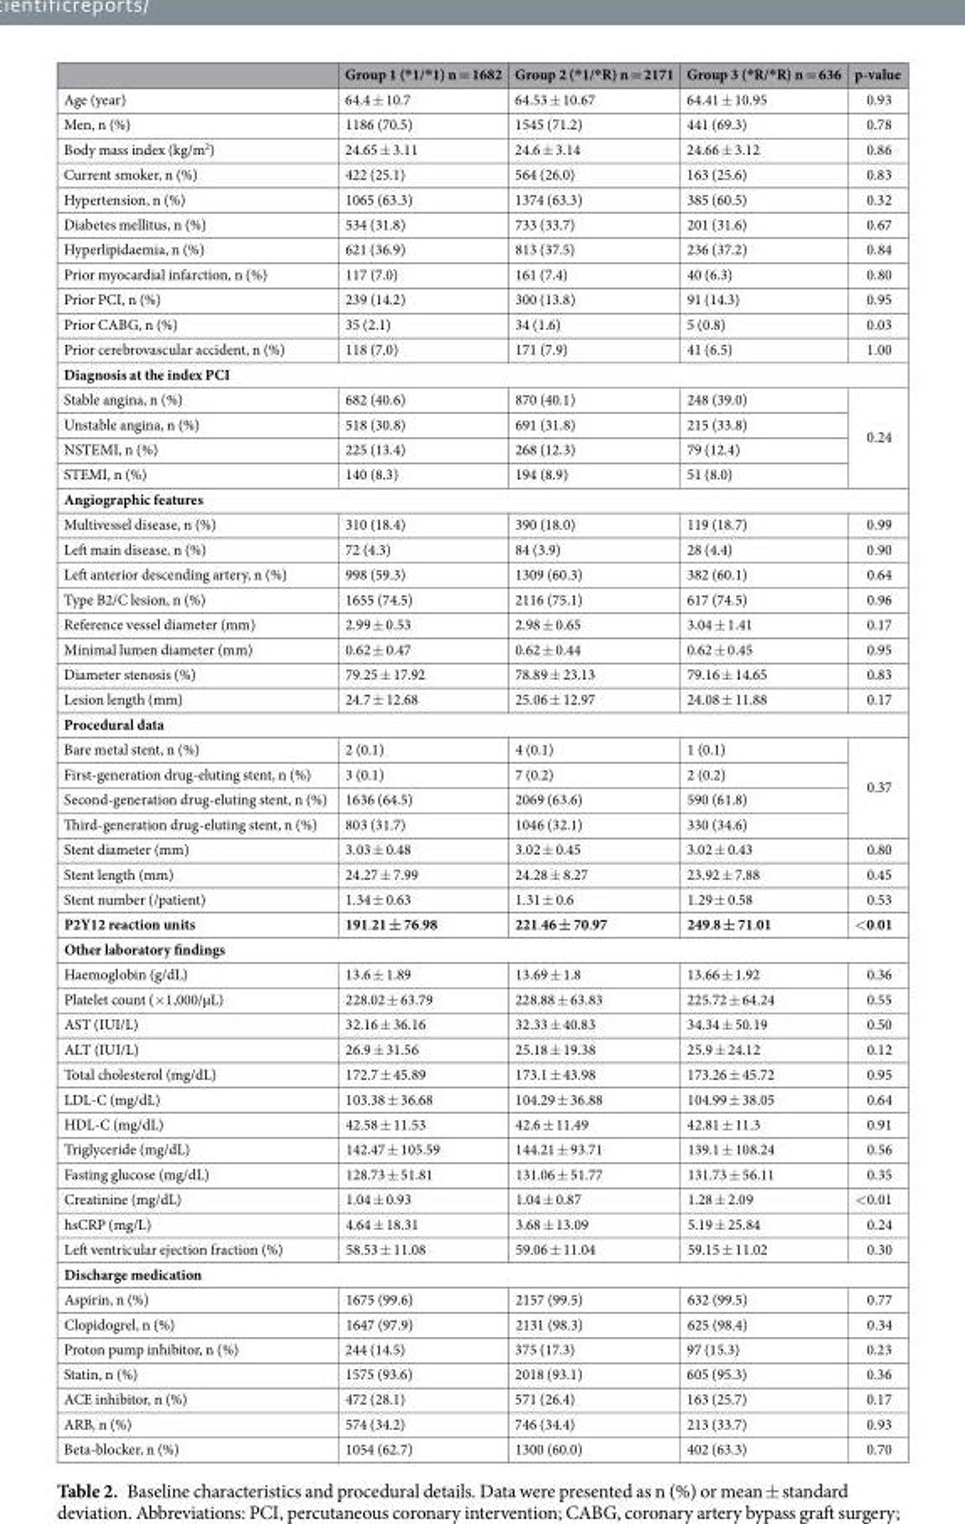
<table><thead><tr><td></td><td>Group 1 (*1/*1) n = 1682</td><td>Group 2 (*1/*R) n = 2171</td><td>Group 3 (*R/*R) n = 636</td><td>p-value</td></tr></thead><tbody><tr><td>Age (year)</td><td>64.4 ± 10.7</td><td>64.53 ± 10.67</td><td>64.41 ± 10.95</td><td>0.93</td></tr><tr><td>Men, n (%)</td><td>1186 (70.5)</td><td>1545 (71.2)</td><td>441 (69.3)</td><td>0.78</td></tr><tr><td>Body mass index (kg/m<sup>2</sup>)</td><td>24.65 ± 3.11</td><td>24.6 ± 3.14</td><td>24.66 ± 3.12</td><td>0.86</td></tr><tr><td>Current smoker, n (%)</td><td>422 (25.1)</td><td>564 (26.0)</td><td>163 (25.6)</td><td>0.83</td></tr><tr><td>Hypertension, n (%)</td><td>1065 (63.3)</td><td>1374 (63.3)</td><td>385 (60.5)</td><td>0.32</td></tr><tr><td>Diabetes mellitus, n (%)</td><td>534 (31.8)</td><td>733 (33.7)</td><td>201 (31.6)</td><td>0.67</td></tr><tr><td>Hyperlipidaemia, n (%)</td><td>621 (36.9)</td><td>813 (37.5)</td><td>236 (37.2)</td><td>0.84</td></tr><tr><td>Prior myocardial infarction, n (%)</td><td>117 (7.0)</td><td>161 (7.4)</td><td>40 (6.3)</td><td>0.80</td></tr><tr><td>Prior PCI, n (%)</td><td>239 (14.2)</td><td>300 (13.8)</td><td>91 (14.3)</td><td>0.95</td></tr><tr><td>Prior CABG, n (%)</td><td>35 (2.1)</td><td>34 (1.6)</td><td>5 (0.8)</td><td>0.03</td></tr><tr><td>Prior cerebrovascular accident, n (%)</td><td>118 (7.0)</td><td>171 (7.9)</td><td>41 (6.5)</td><td>1.00</td></tr><tr><td colspan="5">Diagnosis at the index PCI</td></tr><tr><td>Stable angina, n (%)</td><td>682 (40.6)</td><td>870 (40.1)</td><td>248 (39.0)</td><td rowspan="4">0.24</td></tr><tr><td>Unstable angina, n (%)</td><td>518 (30.8)</td><td>691 (31.8)</td><td>215 (33.8)</td></tr><tr><td>NSTEMI, n (%)</td><td>225 (13.4)</td><td>268 (12.3)</td><td>79 (12.4)</td></tr><tr><td>STEMI, n (%)</td><td>140 (8.3)</td><td>194 (8.9)</td><td>51 (8.0)</td></tr><tr><td colspan="5">Angiographic features</td></tr><tr><td>Multivessel disease, n (%)</td><td>310 (18.4)</td><td>390 (18.0)</td><td>119 (18.7)</td><td>0.99</td></tr><tr><td>Left main disease, n (%)</td><td>72 (4.3)</td><td>84 (3.9)</td><td>28 (4.4)</td><td>0.90</td></tr><tr><td>Left anterior descending artery, n (%)</td><td>998 (59.3)</td><td>1309 (60.3)</td><td>382 (60.1)</td><td>0.64</td></tr><tr><td>Type B2/C lesion, n (%)</td><td>1655 (74.5)</td><td>2116 (75.1)</td><td>617 (74.5)</td><td>0.96</td></tr><tr><td>Reference vessel diameter (mm)</td><td>2.99 ± 0.53</td><td>2.98 ± 0.65</td><td>3.04 ± 1.41</td><td>0.17</td></tr><tr><td>Minimal lumen diameter (mm)</td><td>0.62 ± 0.47</td><td>0.62 ± 0.44</td><td>0.62 ± 0.45</td><td>0.95</td></tr><tr><td>Diameter stenosis (%)</td><td>79.25 ± 17.92</td><td>78.89 ± 23.13</td><td>79.16 ± 14.65</td><td>0.83</td></tr><tr><td>Lesion length (mm)</td><td>24.7 ± 12.68</td><td>25.06 ± 12.97</td><td>24.08 ± 11.88</td><td>0.17</td></tr><tr><td colspan="5">Procedural data</td></tr><tr><td>Bare metal stent, n (%)</td><td>2 (0.1)</td><td>4 (0.1)</td><td>1 (0.1)</td><td rowspan="4">0.37</td></tr><tr><td>First-generation drug-eluting stent, n (%)</td><td>3 (0.1)</td><td>7 (0.2)</td><td>2 (0.2)</td></tr><tr><td>Second-generation drug-eluting stent, n (%)</td><td>1636 (64.5)</td><td>2069 (63.6)</td><td>590 (61.8)</td></tr><tr><td>Third-generation drug-eluting stent, n (%)</td><td>803 (31.7)</td><td>1046 (32.1)</td><td>330 (34.6)</td></tr><tr><td>Stent diameter (mm)</td><td>3.03 ± 0.48</td><td>3.02 ± 0.45</td><td>3.02 ± 0.43</td><td>0.80</td></tr><tr><td>Stent length (mm)</td><td>24.27 ± 7.99</td><td>24.28 ± 8.27</td><td>23.92 ± 7.88</td><td>0.45</td></tr><tr><td>Stent number (/patient)</td><td>1.34 ± 0.63</td><td>1.31 ± 0.6</td><td>1.29 ± 0.58</td><td>0.53</td></tr><tr><td>P2Y12 reaction units</td><td>191.21 ± 76.98</td><td>221.46 ± 70.97</td><td>249.8 ± 71.01</td><td>&lt;0.01</td></tr><tr><td colspan="5">Other laboratory findings</td></tr><tr><td>Haemoglobin (g/dL)</td><td>13.6 ± 1.89</td><td>13.69 ± 1.8</td><td>13.66 ± 1.92</td><td>0.36</td></tr><tr><td>Platelet count (×1,000/µL)</td><td>228.02 ± 63.79</td><td>228.88 ± 63.83</td><td>225.72 ± 64.24</td><td>0.55</td></tr><tr><td>AST (IUI/L)</td><td>32.16 ± 36.16</td><td>32.33 ± 40.83</td><td>34.34 ± 50.19</td><td>0.50</td></tr><tr><td>ALT (IUI/L)</td><td>26.9 ± 31.56</td><td>25.18 ± 19.38</td><td>25.9 ± 24.12</td><td>0.12</td></tr><tr><td>Total cholesterol (mg/dL)</td><td>172.7 ± 45.89</td><td>173.1 ± 43.98</td><td>173.26 ± 45.72</td><td>0.95</td></tr><tr><td>LDL-C (mg/dL)</td><td>103.38 ± 36.68</td><td>104.29 ± 36.88</td><td>104.99 ± 38.05</td><td>0.64</td></tr><tr><td>HDL-C (mg/dL)</td><td>42.58 ± 11.53</td><td>42.6 ± 11.49</td><td>42.81 ± 11.3</td><td>0.91</td></tr><tr><td>Triglyceride (mg/dL)</td><td>142.47 ± 105.59</td><td>144.21 ± 93.71</td><td>139.1 ± 108.24</td><td>0.56</td></tr><tr><td>Fasting glucose (mg/dL)</td><td>128.73 ± 51.81</td><td>131.06 ± 51.77</td><td>131.73 ± 56.11</td><td>0.35</td></tr><tr><td>Creatinine (mg/dL)</td><td>1.04 ± 0.93</td><td>1.04 ± 0.87</td><td>1.28 ± 2.09</td><td>&lt;0.01</td></tr><tr><td>hsCRP (mg/L)</td><td>4.64 ± 18.31</td><td>3.68 ± 13.09</td><td>5.19 ± 25.84</td><td>0.24</td></tr><tr><td>Left ventricular ejection fraction (%)</td><td>58.53 ± 11.08</td><td>59.06 ± 11.04</td><td>59.15 ± 11.02</td><td>0.30</td></tr><tr><td colspan="5">Discharge medication</td></tr><tr><td>Aspirin, n (%)</td><td>1675 (99.6)</td><td>2157 (99.5)</td><td>632 (99.5)</td><td>0.77</td></tr><tr><td>Clopidogrel, n (%)</td><td>1647 (97.9)</td><td>2131 (98.3)</td><td>625 (98.4)</td><td>0.34</td></tr><tr><td>Proton pump inhibitor, n (%)</td><td>244 (14.5)</td><td>375 (17.3)</td><td>97 (15.3)</td><td>0.23</td></tr><tr><td>Statin, n (%)</td><td>1575 (93.6)</td><td>2018 (93.1)</td><td>605 (95.3)</td><td>0.36</td></tr><tr><td>ACE inhibitor, n (%)</td><td>472 (28.1)</td><td>571 (26.4)</td><td>163 (25.7)</td><td>0.17</td></tr><tr><td>ARB, n (%)</td><td>574 (34.2)</td><td>746 (34.4)</td><td>213 (33.7)</td><td>0.93</td></tr><tr><td>Beta-blocker, n (%)</td><td>1054 (62.7)</td><td>1300 (60.0)</td><td>402 (63.3)</td><td>0.70</td></tr></tbody></table>